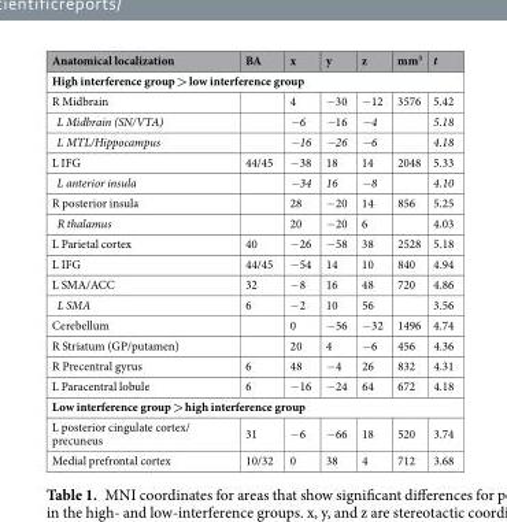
<table><thead><tr><td>Anatomical localization</td><td>BA</td><td>x</td><td>y</td><td>z</td><td>mm<sup>3</sup></td><td>t</td></tr></thead><tbody><tr><td colspan="7">High interference group &gt; low interference group</td></tr><tr><td>R Midbrain</td><td></td><td>4</td><td>−30</td><td>−12</td><td>3576</td><td>5.42</td></tr><tr><td>L Midbrain (SN/VTA)</td><td></td><td>−6</td><td>−16</td><td>−4</td><td></td><td>5.18</td></tr><tr><td>L MTL/Hippocampus</td><td></td><td>−16</td><td>−26</td><td>−6</td><td></td><td>4.18</td></tr><tr><td>L IFG</td><td>44/45</td><td>−38</td><td>18</td><td>14</td><td>2048</td><td>5.33</td></tr><tr><td>L anterior insula</td><td></td><td>−34</td><td>16</td><td>−8</td><td></td><td>4.10</td></tr><tr><td>R posterior insula</td><td></td><td>28</td><td>−20</td><td>14</td><td>856</td><td>5.25</td></tr><tr><td>R thalamus</td><td></td><td>20</td><td>−20</td><td>6</td><td></td><td>4.03</td></tr><tr><td>L Parietal cortex</td><td>40</td><td>−26</td><td>−58</td><td>38</td><td>2528</td><td>5.18</td></tr><tr><td>L IFG</td><td>44/45</td><td>−54</td><td>14</td><td>10</td><td>840</td><td>4.94</td></tr><tr><td>L SMA/ACC</td><td>32</td><td>−8</td><td>16</td><td>48</td><td>720</td><td>4.86</td></tr><tr><td>L SMA</td><td>6</td><td>−2</td><td>10</td><td>56</td><td></td><td>3.56</td></tr><tr><td>Cerebellum</td><td></td><td>0</td><td>−56</td><td>−32</td><td>1496</td><td>4.74</td></tr><tr><td>R Striatum (GP/putamen)</td><td></td><td>20</td><td>4</td><td>−6</td><td>456</td><td>4.36</td></tr><tr><td>R Precentral gyrus</td><td>6</td><td>48</td><td>−4</td><td>26</td><td>832</td><td>4.31</td></tr><tr><td>L Paracentral lobule</td><td>6</td><td>−16</td><td>−24</td><td>64</td><td>672</td><td>4.18</td></tr><tr><td colspan="7">Low interference group &gt; high interference group</td></tr><tr><td>L posterior cingulate cortex/ precuneus</td><td>31</td><td>−6</td><td>−66</td><td>18</td><td>520</td><td>3.74</td></tr><tr><td>Medial prefrontal cortex</td><td>10/32</td><td>0</td><td>38</td><td>4</td><td>712</td><td>3.68</td></tr></tbody></table>